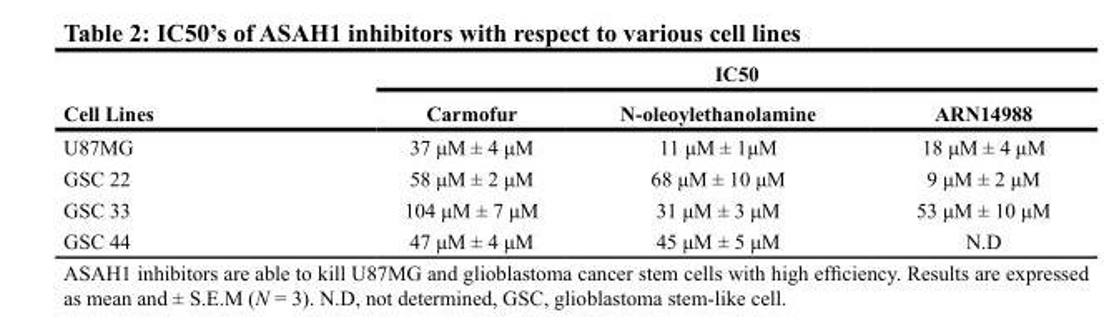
<table><thead><tr><td rowspan="2">Cell Lines</td><td colspan="3">IC50</td></tr><tr><td>Carmofur</td><td>N-oleoylethanolamine</td><td>ARN14988</td></tr></thead><tbody><tr><td>U87MG</td><td>37 μM ± 4 μM</td><td>11 μM ± 1μM</td><td>18 μM ± 4 μM</td></tr><tr><td>GSC 22</td><td>58 μM ± 2 μM</td><td>68 μM ± 10 μM</td><td>9 μM ± 2 μM</td></tr><tr><td>GSC 33</td><td>104 μM ± 7 μM</td><td>31 μM ± 3 μM</td><td>53 μM ± 10 μM</td></tr><tr><td>GSC 44</td><td>47 μM ± 4 μM</td><td>45 μM ± 5 μM</td><td>N.D</td></tr></tbody></table>